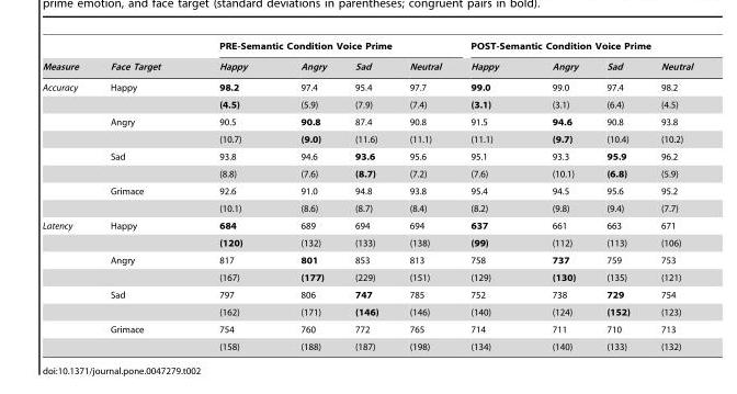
<table><thead><tr><td rowspan="2">Measure</td><td rowspan="2">Face Target</td><td colspan="4">PRE-Semantic Condition Voice Prime</td><td colspan="4">POST-Semantic Condition Voice Prime</td></tr><tr><td>Happy</td><td>Angry</td><td>Sad</td><td>Neutral</td><td>Happy</td><td>Angry</td><td>Sad</td><td>Neutral</td></tr></thead><tbody><tr><td rowspan="8">Accuracy</td><td>Happy</td><td>98.2</td><td>97.4</td><td>95.4</td><td>97.7</td><td>99.0</td><td>99.0</td><td>97.4</td><td>98.2</td></tr><tr><td></td><td>(4.5)</td><td>(5.9)</td><td>(7.9)</td><td>(7.4)</td><td>(3.1)</td><td>(3.1)</td><td>(6.4)</td><td>(4.5)</td></tr><tr><td>Angry</td><td>90.5</td><td>90.8</td><td>87.4</td><td>90.8</td><td>91.5</td><td>94.6</td><td>90.8</td><td>93.8</td></tr><tr><td></td><td>(10.7)</td><td>(9.0)</td><td>(11.6)</td><td>(11.1)</td><td>(11.1)</td><td>(9.7)</td><td>(10.4)</td><td>(10.2)</td></tr><tr><td>Sad</td><td>93.8</td><td>94.6</td><td>93.6</td><td>95.6</td><td>95.1</td><td>93.3</td><td>95.9</td><td>96.2</td></tr><tr><td></td><td>(8.8)</td><td>(7.6)</td><td>(8.7)</td><td>(7.2)</td><td>(7.6)</td><td>(10.1)</td><td>(6.8)</td><td>(5.9)</td></tr><tr><td>Grimace</td><td>92.6</td><td>91.0</td><td>94.8</td><td>93.8</td><td>95.4</td><td>94.5</td><td>95.6</td><td>95.2</td></tr><tr><td></td><td>(10.1)</td><td>(8.6)</td><td>(8.7)</td><td>(8.4)</td><td>(8.2)</td><td>(9.8)</td><td>(9.4)</td><td>(7.7)</td></tr><tr><td rowspan="8">Latency</td><td>Happy</td><td>684</td><td>689</td><td>694</td><td>694</td><td>637</td><td>661</td><td>663</td><td>671</td></tr><tr><td></td><td>(120)</td><td>(132)</td><td>(133)</td><td>(138)</td><td>(99)</td><td>(112)</td><td>(113)</td><td>(106)</td></tr><tr><td>Angry</td><td>817</td><td>801</td><td>853</td><td>813</td><td>758</td><td>737</td><td>759</td><td>753</td></tr><tr><td></td><td>(167)</td><td>(177)</td><td>(229)</td><td>(151)</td><td>(129)</td><td>(130)</td><td>(135)</td><td>(121)</td></tr><tr><td>Sad</td><td>797</td><td>806</td><td>747</td><td>785</td><td>752</td><td>738</td><td>729</td><td>754</td></tr><tr><td></td><td>(162)</td><td>(171)</td><td>(146)</td><td>(146)</td><td>(140)</td><td>(124)</td><td>(152)</td><td>(123)</td></tr><tr><td>Grimace</td><td>754</td><td>760</td><td>772</td><td>765</td><td>714</td><td>711</td><td>710</td><td>713</td></tr><tr><td></td><td>(158)</td><td>(188)</td><td>(187)</td><td>(198)</td><td>(134)</td><td>(140)</td><td>(133)</td><td>(132)</td></tr></tbody></table>